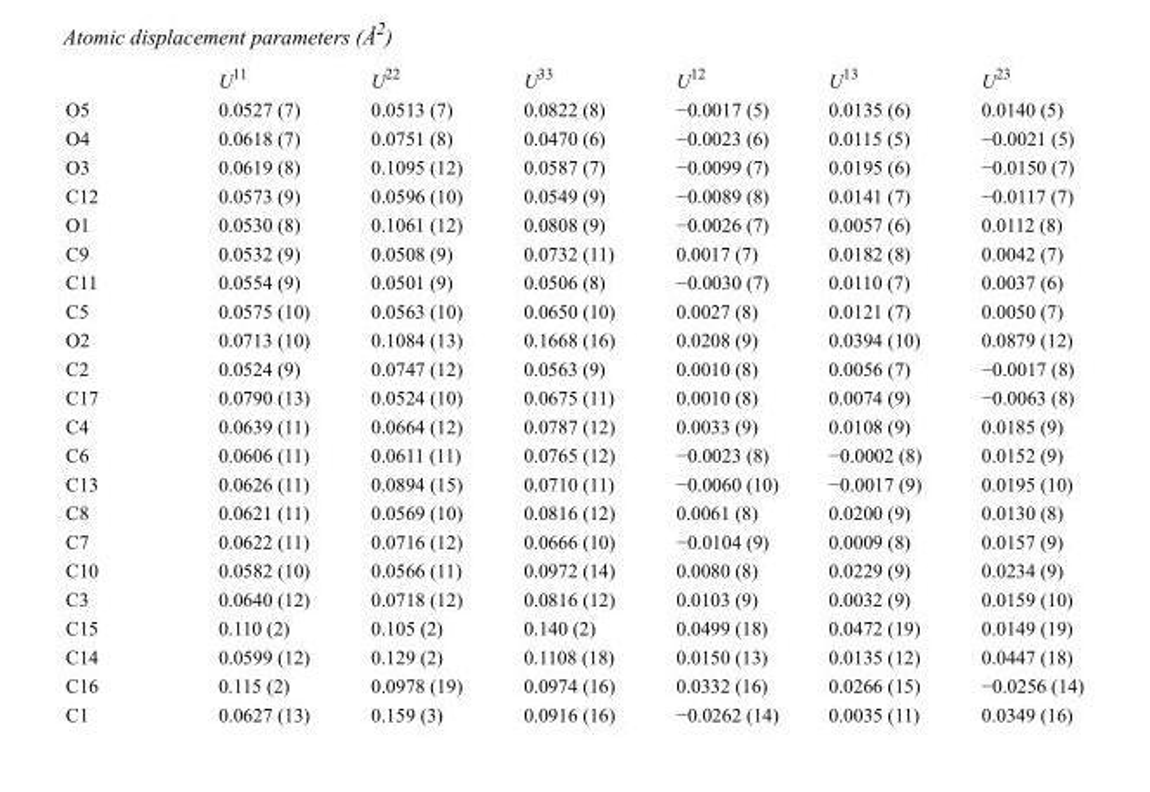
<table><thead><tr><td></td><td>U<sup>11</sup></td><td>U<sup>22</sup></td><td>U<sup>33</sup></td><td>U<sup>12</sup></td><td>U<sup>13</sup></td><td>U<sup>23</sup></td></tr></thead><tbody><tr><td>O5</td><td>0.0527 (7)</td><td>0.0513 (7)</td><td>0.0822 (8)</td><td>−0.0017 (5)</td><td>0.0135 (6)</td><td>0.0140 (5)</td></tr><tr><td>O4</td><td>0.0618 (7)</td><td>0.0751 (8)</td><td>0.0470 (6)</td><td>−0.0023 (6)</td><td>0.0115 (5)</td><td>−0.0021 (5)</td></tr><tr><td>O3</td><td>0.0619 (8)</td><td>0.1095 (12)</td><td>0.0587 (7)</td><td>−0.0099 (7)</td><td>0.0195 (6)</td><td>−0.0150 (7)</td></tr><tr><td>C12</td><td>0.0573 (9)</td><td>0.0596 (10)</td><td>0.0549 (9)</td><td>−0.0089 (8)</td><td>0.0141 (7)</td><td>−0.0117 (7)</td></tr><tr><td>O1</td><td>0.0530 (8)</td><td>0.1061 (12)</td><td>0.0808 (9)</td><td>−0.0026 (7)</td><td>0.0057 (6)</td><td>0.0112 (8)</td></tr><tr><td>C9</td><td>0.0532 (9)</td><td>0.0508 (9)</td><td>0.0732 (11)</td><td>0.0017 (7)</td><td>0.0182 (8)</td><td>0.0042 (7)</td></tr><tr><td>C11</td><td>0.0554 (9)</td><td>0.0501 (9)</td><td>0.0506 (8)</td><td>−0.0030 (7)</td><td>0.0110 (7)</td><td>0.0037 (6)</td></tr><tr><td>C5</td><td>0.0575 (10)</td><td>0.0563 (10)</td><td>0.0650 (10)</td><td>0.0027 (8)</td><td>0.0121 (7)</td><td>0.0050 (7)</td></tr><tr><td>O2</td><td>0.0713 (10)</td><td>0.1084 (13)</td><td>0.1668 (16)</td><td>0.0208 (9)</td><td>0.0394 (10)</td><td>0.0879 (12)</td></tr><tr><td>C2</td><td>0.0524 (9)</td><td>0.0747 (12)</td><td>0.0563 (9)</td><td>0.0010 (8)</td><td>0.0056 (7)</td><td>−0.0017 (8)</td></tr><tr><td>C17</td><td>0.0790 (13)</td><td>0.0524 (10)</td><td>0.0675 (11)</td><td>0.0010 (8)</td><td>0.0074 (9)</td><td>−0.0063 (8)</td></tr><tr><td>C4</td><td>0.0639 (11)</td><td>0.0664 (12)</td><td>0.0787 (12)</td><td>0.0033 (9)</td><td>0.0108 (9)</td><td>0.0185 (9)</td></tr><tr><td>C6</td><td>0.0606 (11)</td><td>0.0611 (11)</td><td>0.0765 (12)</td><td>−0.0023 (8)</td><td>−0.0002 (8)</td><td>0.0152 (9)</td></tr><tr><td>C13</td><td>0.0626 (11)</td><td>0.0894 (15)</td><td>0.0710 (11)</td><td>−0.0060 (10)</td><td>−0.0017 (9)</td><td>0.0195 (10)</td></tr><tr><td>C8</td><td>0.0621 (11)</td><td>0.0569 (10)</td><td>0.0816 (12)</td><td>0.0061 (8)</td><td>0.0200 (9)</td><td>0.0130 (8)</td></tr><tr><td>C7</td><td>0.0622 (11)</td><td>0.0716 (12)</td><td>0.0666 (10)</td><td>−0.0104 (9)</td><td>0.0009 (8)</td><td>0.0157 (9)</td></tr><tr><td>C10</td><td>0.0582 (10)</td><td>0.0566 (11)</td><td>0.0972 (14)</td><td>0.0080 (8)</td><td>0.0229 (9)</td><td>0.0234 (9)</td></tr><tr><td>C3</td><td>0.0640 (12)</td><td>0.0718 (12)</td><td>0.0816 (12)</td><td>0.0103 (9)</td><td>0.0032 (9)</td><td>0.0159 (10)</td></tr><tr><td>C15</td><td>0.110 (2)</td><td>0.105 (2)</td><td>0.140 (2)</td><td>0.0499 (18)</td><td>0.0472 (19)</td><td>0.0149 (19)</td></tr><tr><td>C14</td><td>0.0599 (12)</td><td>0.129 (2)</td><td>0.1108 (18)</td><td>0.0150 (13)</td><td>0.0135 (12)</td><td>0.0447 (18)</td></tr><tr><td>C16</td><td>0.115 (2)</td><td>0.0978 (19)</td><td>0.0974 (16)</td><td>0.0332 (16)</td><td>0.0266 (15)</td><td>−0.0256 (14)</td></tr><tr><td>C1</td><td>0.0627 (13)</td><td>0.159 (3)</td><td>0.0916 (16)</td><td>−0.0262 (14)</td><td>0.0035 (11)</td><td>0.0349 (16)</td></tr></tbody></table>